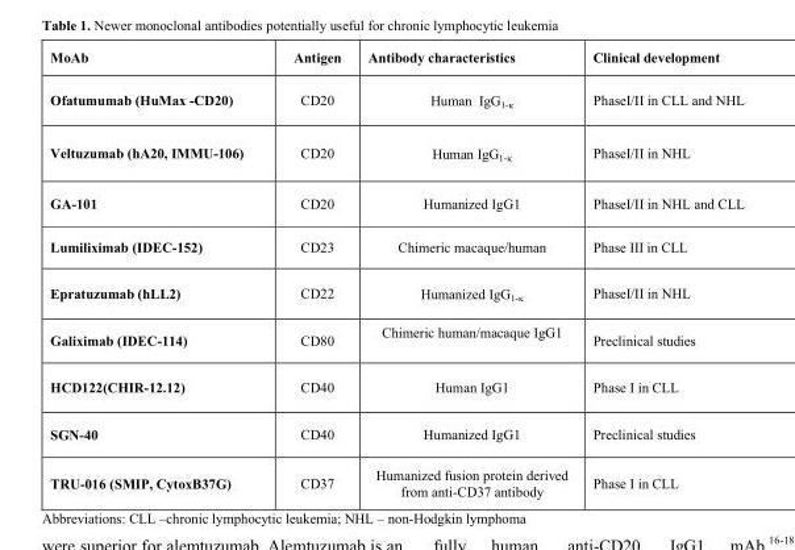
<table><thead><tr><td>MoAb</td><td>Antigen</td><td>Antibody characteristics</td><td>Clinical development</td></tr></thead><tbody><tr><td>Ofatumumab (HuMax -CD20)</td><td>CD20</td><td>Human IgG<sub>1-κ</sub></td><td>PhaseI/II in CLL and NHL</td></tr><tr><td>Veltuzumab (hA20, IMMU-106)</td><td>CD20</td><td>Human IgG<sub>1-κ</sub></td><td>PhaseI/II in NHL</td></tr><tr><td>GA-101</td><td>CD20</td><td>Humanized IgG1</td><td>PhaseI/II in NHL and CLL</td></tr><tr><td>Lumiliximab (IDEC-152)</td><td>CD23</td><td>Chimeric macaque/human</td><td>Phase III in CLL</td></tr><tr><td>Epratuzumab (hLL2)</td><td>CD22</td><td>Humanized IgG<sub>1-κ</sub></td><td>PhaseI/II in NHL</td></tr><tr><td>Galiximab (IDEC-114)</td><td>CD80</td><td>Chimeric human/macaque IgG1</td><td>Preclinical studies</td></tr><tr><td>HCD122(CHIR-12.12)</td><td>CD40</td><td>Human IgG1</td><td>Phase I in CLL</td></tr><tr><td>SGN-40</td><td>CD40</td><td>Humanized IgG1</td><td>Preclinical studies</td></tr><tr><td>TRU-016 (SMIP, CytoxB37G)</td><td>CD37</td><td>Humanized fusion protein derived from anti-CD37 antibody</td><td>Phase I in CLL</td></tr></tbody></table>